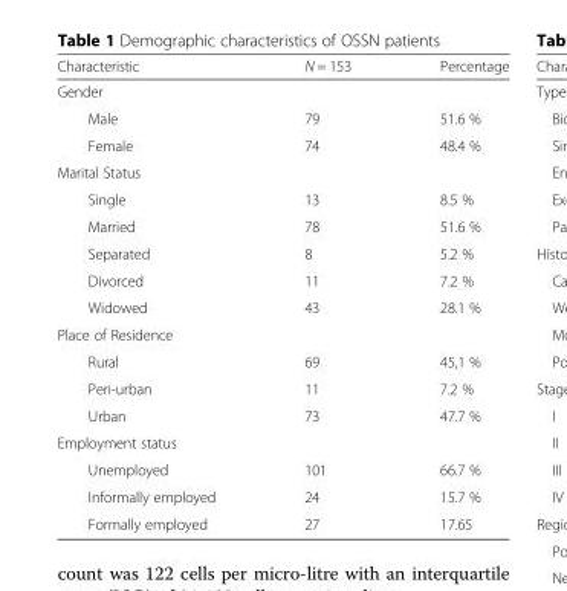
<table><thead><tr><td>Characteristic</td><td>N = 153</td><td>Percentage</td></tr></thead><tbody><tr><td colspan="3">Gender</td></tr><tr><td>Male</td><td>79</td><td>51.6 %</td></tr><tr><td>Female</td><td>74</td><td>48.4 %</td></tr><tr><td colspan="3">Marital Status</td></tr><tr><td>Single</td><td>13</td><td>8.5 %</td></tr><tr><td>Married</td><td>78</td><td>51.6 %</td></tr><tr><td>Separated</td><td>8</td><td>5.2 %</td></tr><tr><td>Divorced</td><td>11</td><td>7.2 %</td></tr><tr><td>Widowed</td><td>43</td><td>28.1 %</td></tr><tr><td colspan="3">Place of Residence</td></tr><tr><td>Rural</td><td>69</td><td>45,1 %</td></tr><tr><td>Peri-urban</td><td>11</td><td>7.2 %</td></tr><tr><td>Urban</td><td>73</td><td>47.7 %</td></tr><tr><td colspan="3">Employment status</td></tr><tr><td>Unemployed</td><td>101</td><td>66.7 %</td></tr><tr><td>Informally employed</td><td>24</td><td>15.7 %</td></tr><tr><td>Formally employed</td><td>27</td><td>17.65</td></tr></tbody></table>